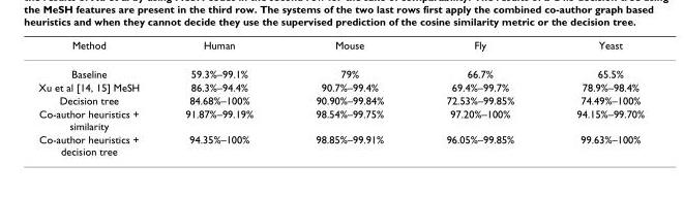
<table><thead><tr><td>Method</td><td>Human</td><td>Mouse</td><td>Fly</td><td>Yeast</td></tr></thead><tbody><tr><td>Baseline</td><td>59.3%–99.1%</td><td>79%</td><td>66.7%</td><td>65.5%</td></tr><tr><td>Xu et al [14, 15] MeSH</td><td>86.3%–94.4%</td><td>90.7%–99.4%</td><td>69.4%–99.7%</td><td>78.9%–98.4%</td></tr><tr><td>Decision tree</td><td>84.68%–100%</td><td>90.90%–99.84%</td><td>72.53%–99.85%</td><td>74.49%–100%</td></tr><tr><td>Co-author heuristics + similarity</td><td>91.87%–99.19%</td><td>98.54%–99.75%</td><td>97.20%–100%</td><td>94.15%–99.70%</td></tr><tr><td>Co-author heuristics + decision tree</td><td>94.35%–100%</td><td>98.85%–99.91%</td><td>96.05%–99.85%</td><td>99.63%–100%</td></tr></tbody></table>